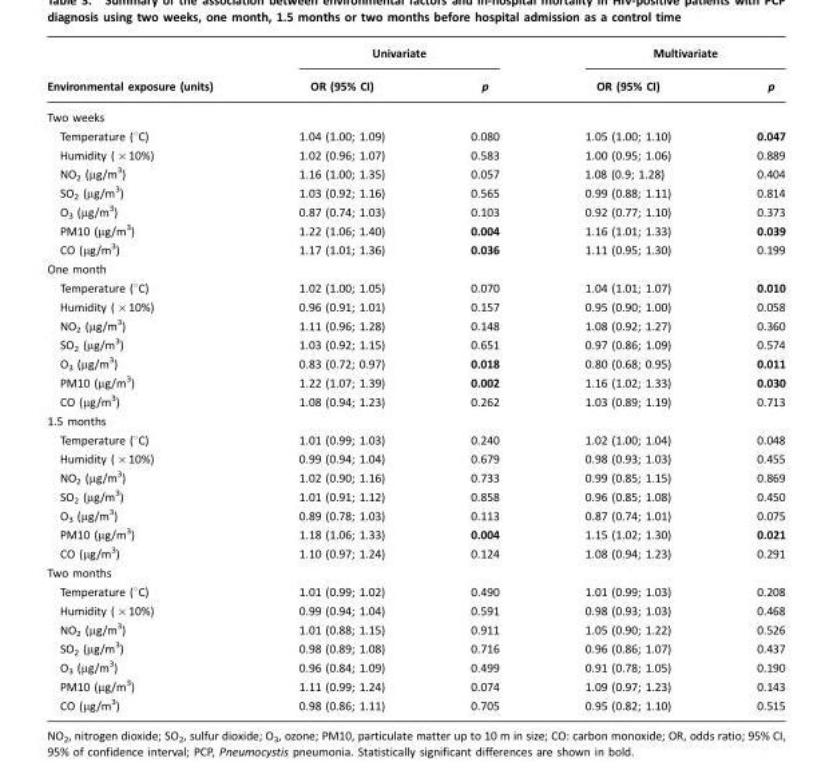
<table><thead><tr><td rowspan="2">Environmental exposure (units)</td><td colspan="2">Univariate</td><td colspan="2">Multivariate</td></tr><tr><td>OR (95% CI)</td><td>p</td><td>OR (95% CI)</td><td>p</td></tr></thead><tbody><tr><td colspan="5">Two weeks</td></tr><tr><td>Temperature (°C)</td><td>1.04 (1.00; 1.09)</td><td>0.080</td><td>1.05 (1.00; 1.10)</td><td>0.047</td></tr><tr><td>Humidity (×10%)</td><td>1.02 (0.96; 1.07)</td><td>0.583</td><td>1.00 (0.95; 1.06)</td><td>0.889</td></tr><tr><td>NO<sub>2</sub> (µg/m<sup>3</sup>)</td><td>1.16 (1.00; 1.35)</td><td>0.057</td><td>1.08 (0.9; 1.28)</td><td>0.404</td></tr><tr><td>SO<sub>2</sub> (µg/m<sup>3</sup>)</td><td>1.03 (0.92; 1.16)</td><td>0.565</td><td>0.99 (0.88; 1.11)</td><td>0.814</td></tr><tr><td>O<sub>3</sub> (µg/m<sup>3</sup>)</td><td>0.87 (0.74; 1.03)</td><td>0.103</td><td>0.92 (0.77; 1.10)</td><td>0.373</td></tr><tr><td>PM10 (µg/m<sup>3</sup>)</td><td>1.22 (1.06; 1.40)</td><td>0.004</td><td>1.16 (1.01; 1.33)</td><td>0.039</td></tr><tr><td>CO (µg/m<sup>3</sup>)</td><td>1.17 (1.01; 1.36)</td><td>0.036</td><td>1.11 (0.95; 1.30)</td><td>0.199</td></tr><tr><td colspan="5">One month</td></tr><tr><td>Temperature (°C)</td><td>1.02 (1.00; 1.05)</td><td>0.070</td><td>1.04 (1.01; 1.07)</td><td>0.010</td></tr><tr><td>Humidity (×10%)</td><td>0.96 (0.91; 1.01)</td><td>0.157</td><td>0.95 (0.90; 1.00)</td><td>0.058</td></tr><tr><td>NO<sub>2</sub> (µg/m<sup>3</sup>)</td><td>1.11 (0.96; 1.28)</td><td>0.148</td><td>1.08 (0.92; 1.27)</td><td>0.360</td></tr><tr><td>SO<sub>2</sub> (µg/m<sup>3</sup>)</td><td>1.03 (0.92; 1.15)</td><td>0.651</td><td>0.97 (0.86; 1.09)</td><td>0.574</td></tr><tr><td>O<sub>3</sub> (µg/m<sup>3</sup>)</td><td>0.83 (0.72; 0.97)</td><td>0.018</td><td>0.80 (0.68; 0.95)</td><td>0.011</td></tr><tr><td>PM10 (µg/m<sup>3</sup>)</td><td>1.22 (1.07; 1.39)</td><td>0.002</td><td>1.16 (1.02; 1.33)</td><td>0.030</td></tr><tr><td>CO (µg/m<sup>3</sup>)</td><td>1.08 (0.94; 1.23)</td><td>0.262</td><td>1.03 (0.89; 1.19)</td><td>0.713</td></tr><tr><td colspan="5">1.5 months</td></tr><tr><td>Temperature (°C)</td><td>1.01 (0.99; 1.03)</td><td>0.240</td><td>1.02 (1.00; 1.04)</td><td>0.048</td></tr><tr><td>Humidity (×10%)</td><td>0.99 (0.94; 1.04)</td><td>0.679</td><td>0.98 (0.93; 1.03)</td><td>0.455</td></tr><tr><td>NO<sub>2</sub> (µg/m<sup>3</sup>)</td><td>1.02 (0.90; 1.16)</td><td>0.733</td><td>0.99 (0.85; 1.15)</td><td>0.869</td></tr><tr><td>SO<sub>2</sub> (µg/m<sup>3</sup>)</td><td>1.01 (0.91; 1.12)</td><td>0.858</td><td>0.96 (0.85; 1.08)</td><td>0.450</td></tr><tr><td>O<sub>3</sub> (µg/m<sup>3</sup>)</td><td>0.89 (0.78; 1.03)</td><td>0.113</td><td>0.87 (0.74; 1.01)</td><td>0.075</td></tr><tr><td>PM10 (µg/m<sup>3</sup>)</td><td>1.18 (1.06; 1.33)</td><td>0.004</td><td>1.15 (1.02; 1.30)</td><td>0.021</td></tr><tr><td>CO (µg/m<sup>3</sup>)</td><td>1.10 (0.97; 1.24)</td><td>0.124</td><td>1.08 (0.94; 1.23)</td><td>0.291</td></tr><tr><td colspan="5">Two months</td></tr><tr><td>Temperature (°C)</td><td>1.01 (0.99; 1.02)</td><td>0.490</td><td>1.01 (0.99; 1.03)</td><td>0.208</td></tr><tr><td>Humidity (×10%)</td><td>0.99 (0.94; 1.04)</td><td>0.591</td><td>0.98 (0.93; 1.03)</td><td>0.468</td></tr><tr><td>NO<sub>2</sub> (µg/m<sup>3</sup>)</td><td>1.01 (0.88; 1.15)</td><td>0.911</td><td>1.05 (0.90; 1.22)</td><td>0.526</td></tr><tr><td>SO<sub>2</sub> (µg/m<sup>3</sup>)</td><td>0.98 (0.89; 1.08)</td><td>0.716</td><td>0.96 (0.86; 1.07)</td><td>0.437</td></tr><tr><td>O<sub>3</sub> (µg/m<sup>3</sup>)</td><td>0.96 (0.84; 1.09)</td><td>0.499</td><td>0.91 (0.78; 1.05)</td><td>0.190</td></tr><tr><td>PM10 (µg/m<sup>3</sup>)</td><td>1.11 (0.99; 1.24)</td><td>0.074</td><td>1.09 (0.97; 1.23)</td><td>0.143</td></tr><tr><td>CO (µg/m<sup>3</sup>)</td><td>0.98 (0.86; 1.11)</td><td>0.705</td><td>0.95 (0.82; 1.10)</td><td>0.515</td></tr></tbody></table>